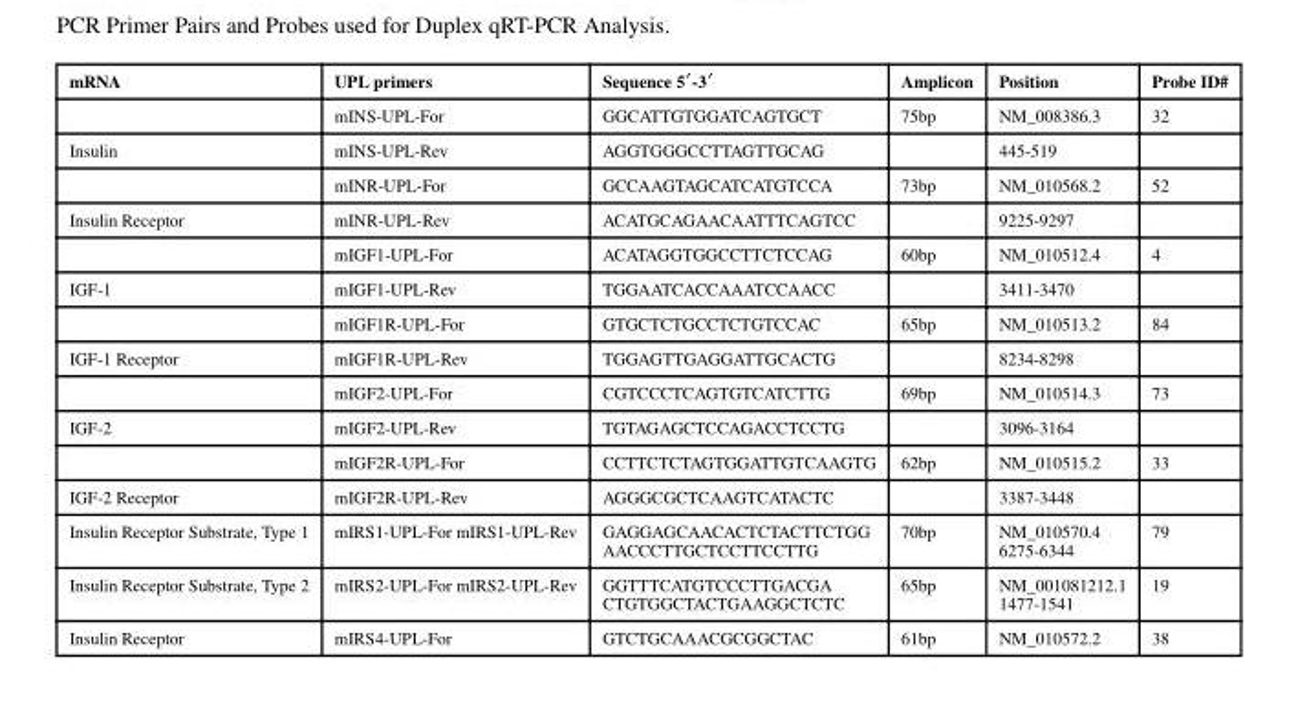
<table><thead><tr><td>mRNA</td><td>UPL primers</td><td>Sequence 5′-3′</td><td>Amplicon</td><td>Position</td><td>Probe ID#</td></tr></thead><tbody><tr><td></td><td>mINS-UPL-For</td><td>GGCATTGTGGATCAGTGCT</td><td>75bp</td><td>NM_008386.3</td><td>32</td></tr><tr><td rowspan="2">Insulin</td><td>mINS-UPL-Rev</td><td>AGGTGGGCCTTAGTTGCAG</td><td></td><td>445-519</td><td></td></tr><tr><td>mINR-UPL-For</td><td>GCCAAGTAGCATCATGTCCA</td><td>73bp</td><td>NM_010568.2</td><td>52</td></tr><tr><td rowspan="2">Insulin Receptor</td><td>mINR-UPL-Rev</td><td>ACATGCAGAACAATTTCAGTCC</td><td></td><td>9225-9297</td><td></td></tr><tr><td>mIGF1-UPL-For</td><td>ACATAGGTGGCCTTCTCCAG</td><td>60bp</td><td>NM_010512.4</td><td>4</td></tr><tr><td rowspan="2">IGF-1</td><td>mIGF1-UPL-Rev</td><td>TGGAATCACCAAATCCAACC</td><td></td><td>3411-3470</td><td></td></tr><tr><td>mIGF1R-UPL-For</td><td>GTGCTCTGCCTCTGTCCAC</td><td>65bp</td><td>NM_010513.2</td><td>84</td></tr><tr><td rowspan="2">IGF-1 Receptor</td><td>mIGF1R-UPL-Rev</td><td>TGGAGTTGAGGATTGCACTG</td><td></td><td>8234-8298</td><td></td></tr><tr><td>mIGF2-UPL-For</td><td>CGTCCCTCAGTGTCATCTTG</td><td>69bp</td><td>NM_010514.3</td><td>73</td></tr><tr><td rowspan="2">IGF-2</td><td>mIGF2-UPL-Rev</td><td>TGTAGAGCTCCAGACCTCCTG</td><td></td><td>3096-3164</td><td></td></tr><tr><td>mIGF2R-UPL-For</td><td>CCTTCTCTAGTGGATTGTCAAGTG</td><td>62bp</td><td>NM_010515.2</td><td>33</td></tr><tr><td>IGF-2 Receptor</td><td>mIGF2R-UPL-Rev</td><td>AGGGCGCTCAAGTCATACTC</td><td></td><td>3387-3448</td><td></td></tr><tr><td>Insulin Receptor Substrate, Type 1</td><td>mIRS1-UPL-For mIRS1-UPL-Rev</td><td>GAGGAGCAACACTCTACTTCTGG AACCCTTGCTCCTTCCTTG</td><td>70bp</td><td>NM_010570.4 6275-6344</td><td>79</td></tr><tr><td>Insulin Receptor Substrate, Type 2</td><td>mIRS2-UPL-For mIRS2-UPL-Rev</td><td>GGTTTCATGTCCCTTGACGA CTGTGGCTACTGAAGGCTCTC</td><td>65bp</td><td>NM_001081212.1 1477-1541</td><td>19</td></tr><tr><td>Insulin Receptor</td><td>mIRS4-UPL-For</td><td>GTCTGCAAACGCGGCTAC</td><td>61bp</td><td>NM_010572.2</td><td>38</td></tr></tbody></table>